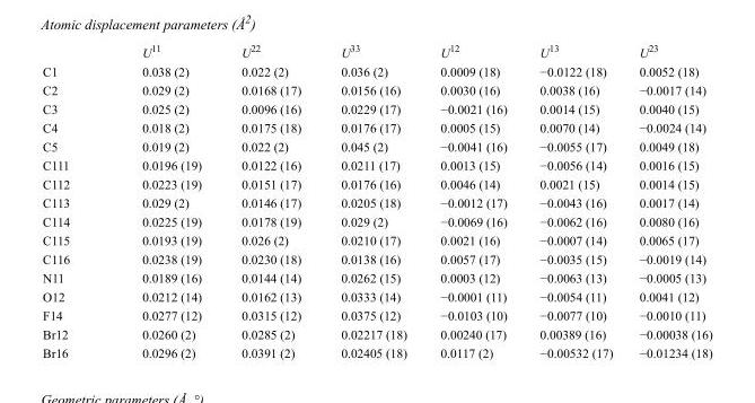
<table><thead><tr><td></td><td>U<sup>11</sup></td><td>U<sup>22</sup></td><td>U<sup>33</sup></td><td>U<sup>12</sup></td><td>U<sup>13</sup></td><td>U<sup>23</sup></td></tr></thead><tbody><tr><td>C1</td><td>0.038 (2)</td><td>0.022 (2)</td><td>0.036 (2)</td><td>0.0009 (18)</td><td>−0.0122 (18)</td><td>0.0052 (18)</td></tr><tr><td>C2</td><td>0.029 (2)</td><td>0.0168 (17)</td><td>0.0156 (16)</td><td>0.0030 (16)</td><td>0.0038 (16)</td><td>−0.0017 (14)</td></tr><tr><td>C3</td><td>0.025 (2)</td><td>0.0096 (16)</td><td>0.0229 (17)</td><td>−0.0021 (16)</td><td>0.0014 (15)</td><td>0.0040 (15)</td></tr><tr><td>C4</td><td>0.018 (2)</td><td>0.0175 (18)</td><td>0.0176 (17)</td><td>0.0005 (15)</td><td>0.0070 (14)</td><td>−0.0024 (14)</td></tr><tr><td>C5</td><td>0.019 (2)</td><td>0.022 (2)</td><td>0.045 (2)</td><td>−0.0041 (16)</td><td>−0.0055 (17)</td><td>0.0049 (18)</td></tr><tr><td>C111</td><td>0.0196 (19)</td><td>0.0122 (16)</td><td>0.0211 (17)</td><td>0.0013 (15)</td><td>−0.0056 (14)</td><td>0.0016 (15)</td></tr><tr><td>C112</td><td>0.0223 (19)</td><td>0.0151 (17)</td><td>0.0176 (16)</td><td>0.0046 (14)</td><td>0.0021 (15)</td><td>0.0014 (15)</td></tr><tr><td>C113</td><td>0.029 (2)</td><td>0.0146 (17)</td><td>0.0205 (18)</td><td>−0.0012 (17)</td><td>−0.0043 (16)</td><td>0.0017 (14)</td></tr><tr><td>C114</td><td>0.0225 (19)</td><td>0.0178 (19)</td><td>0.029 (2)</td><td>−0.0069 (16)</td><td>−0.0062 (16)</td><td>0.0080 (16)</td></tr><tr><td>C115</td><td>0.0193 (19)</td><td>0.026 (2)</td><td>0.0210 (17)</td><td>0.0021 (16)</td><td>−0.0007 (14)</td><td>0.0065 (17)</td></tr><tr><td>C116</td><td>0.0238 (19)</td><td>0.0230 (18)</td><td>0.0138 (16)</td><td>0.0057 (17)</td><td>−0.0035 (15)</td><td>−0.0019 (14)</td></tr><tr><td>N11</td><td>0.0189 (16)</td><td>0.0144 (14)</td><td>0.0262 (15)</td><td>0.0003 (12)</td><td>−0.0063 (13)</td><td>−0.0005 (13)</td></tr><tr><td>O12</td><td>0.0212 (14)</td><td>0.0162 (13)</td><td>0.0333 (14)</td><td>−0.0001 (11)</td><td>−0.0054 (11)</td><td>0.0041 (12)</td></tr><tr><td>F14</td><td>0.0277 (12)</td><td>0.0315 (12)</td><td>0.0375 (12)</td><td>−0.0103 (10)</td><td>−0.0077 (10)</td><td>−0.0010 (11)</td></tr><tr><td>Br12</td><td>0.0260 (2)</td><td>0.0285 (2)</td><td>0.02217 (18)</td><td>0.00240 (17)</td><td>0.00389 (16)</td><td>−0.00038 (16)</td></tr><tr><td>Br16</td><td>0.0296 (2)</td><td>0.0391 (2)</td><td>0.02405 (18)</td><td>0.0117 (2)</td><td>−0.00532 (17)</td><td>−0.01234 (18)</td></tr></tbody></table>